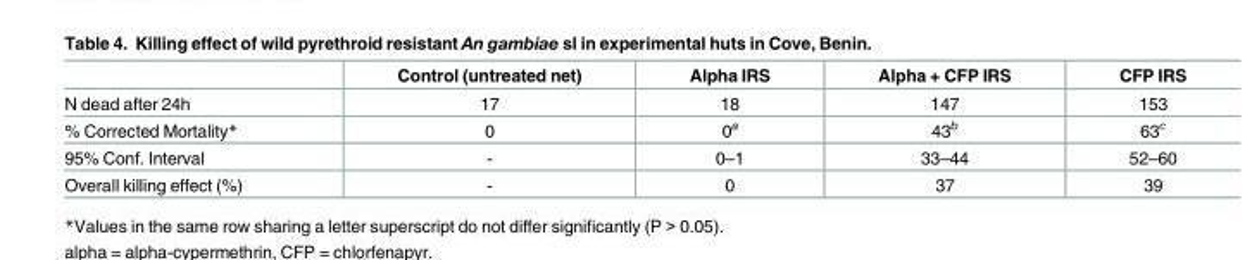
<table><thead><tr><td></td><td>Control (untreated net)</td><td>Alpha IRS</td><td>Alpha + CFP IRS</td><td>CFP IRS</td></tr></thead><tbody><tr><td>N dead after 24h</td><td>17</td><td>18</td><td>147</td><td>153</td></tr><tr><td>% Corrected Mortality*</td><td>0</td><td>0<sup>a</sup></td><td>43<sup>b</sup></td><td>63<sup>c</sup></td></tr><tr><td>95% Conf. Interval</td><td>-</td><td>0–1</td><td>33–44</td><td>52–60</td></tr><tr><td>Overall killing effect (%)</td><td>-</td><td>0</td><td>37</td><td>39</td></tr></tbody></table>